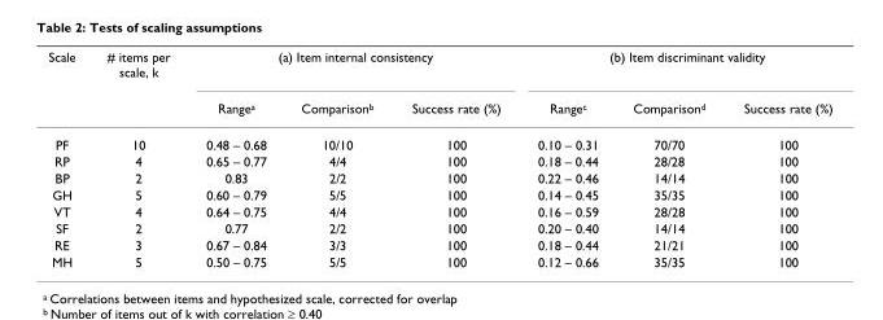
<table><thead><tr><td rowspan="2">Scale</td><td rowspan="2"># items per scale, k</td><td colspan="3">(a) Item internal consistency</td><td colspan="3">(b) Item discriminant validity</td></tr><tr><td>Range<sup>a</sup></td><td>Comparison<sup>b</sup></td><td>Success rate (%)</td><td>Range<sup>c</sup></td><td>Comparison<sup>d</sup></td><td>Success rate (%)</td></tr></thead><tbody><tr><td>PF</td><td>10</td><td>0.48 – 0.68</td><td>10/10</td><td>100</td><td>0.10 – 0.31</td><td>70/70</td><td>100</td></tr><tr><td>RP</td><td>4</td><td>0.65 – 0.77</td><td>4/4</td><td>100</td><td>0.18 – 0.44</td><td>28/28</td><td>100</td></tr><tr><td>BP</td><td>2</td><td>0.83</td><td>2/2</td><td>100</td><td>0.22 – 0.46</td><td>14/14</td><td>100</td></tr><tr><td>GH</td><td>5</td><td>0.60 – 0.79</td><td>5/5</td><td>100</td><td>0.14 – 0.45</td><td>35/35</td><td>100</td></tr><tr><td>VT</td><td>4</td><td>0.64 – 0.75</td><td>4/4</td><td>100</td><td>0.16 – 0.59</td><td>28/28</td><td>100</td></tr><tr><td>SF</td><td>2</td><td>0.77</td><td>2/2</td><td>100</td><td>0.20 – 0.40</td><td>14/14</td><td>100</td></tr><tr><td>RE</td><td>3</td><td>0.67 – 0.84</td><td>3/3</td><td>100</td><td>0.18 – 0.44</td><td>21/21</td><td>100</td></tr><tr><td>MH</td><td>5</td><td>0.50 – 0.75</td><td>5/5</td><td>100</td><td>0.12 – 0.66</td><td>35/35</td><td>100</td></tr></tbody></table>